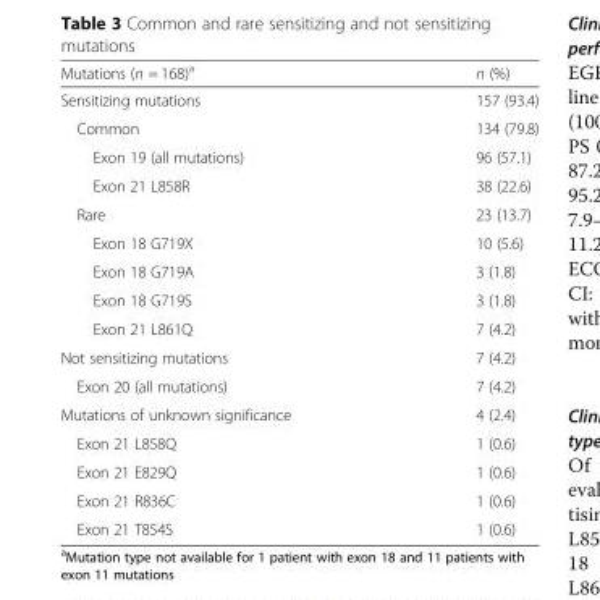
<table><thead><tr><td>Mutations (n = 168)<sup>a</sup></td><td>n (%)</td></tr></thead><tbody><tr><td>Sensitizing mutations</td><td>157 (93.4)</td></tr><tr><td>Common</td><td>134 (79.8)</td></tr><tr><td>Exon 19 (all mutations)</td><td>96 (57.1)</td></tr><tr><td>Exon 21 L858R</td><td>38 (22.6)</td></tr><tr><td>Rare</td><td>23 (13.7)</td></tr><tr><td>Exon 18 G719X</td><td>10 (5.6)</td></tr><tr><td>Exon 18 G719A</td><td>3 (1.8)</td></tr><tr><td>Exon 18 G719S</td><td>3 (1.8)</td></tr><tr><td>Exon 21 L861Q</td><td>7 (4.2)</td></tr><tr><td>Not sensitizing mutations</td><td>7 (4.2)</td></tr><tr><td>Exon 20 (all mutations)</td><td>7 (4.2)</td></tr><tr><td>Mutations of unknown significance</td><td>4 (2.4)</td></tr><tr><td>Exon 21 L858Q</td><td>1 (0.6)</td></tr><tr><td>Exon 21 E829Q</td><td>1 (0.6)</td></tr><tr><td>Exon 21 R836C</td><td>1 (0.6)</td></tr><tr><td>Exon 21 T854S</td><td>1 (0.6)</td></tr></tbody></table>